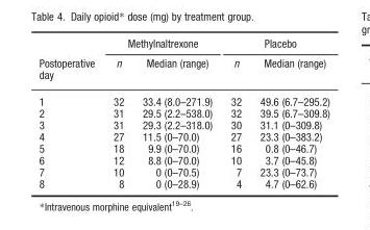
<table><thead><tr><td rowspan="2">Postoperative day</td><td colspan="2">Methylnaltrexone</td><td colspan="2">Placebo</td></tr><tr><td>n</td><td>Median (range)</td><td>n</td><td>Median (range)</td></tr></thead><tbody><tr><td>1</td><td>32</td><td>33.4 (8.0–271.9)</td><td>32</td><td>49.6 (6.7–295.2)</td></tr><tr><td>2</td><td>31</td><td>29.5 (2.2–538.0)</td><td>32</td><td>39.5 (6.7–309.8)</td></tr><tr><td>3</td><td>31</td><td>29.3 (2.2–318.0)</td><td>30</td><td>31.1 (0–309.8)</td></tr><tr><td>4</td><td>27</td><td>11.5 (0–70.0)</td><td>27</td><td>23.3 (0–383.2)</td></tr><tr><td>5</td><td>18</td><td>9.9 (0–70.0)</td><td>16</td><td>0.8 (0–46.7)</td></tr><tr><td>6</td><td>12</td><td>8.8 (0–70.0)</td><td>10</td><td>3.7 (0–45.8)</td></tr><tr><td>7</td><td>10</td><td>0 (0–70.5)</td><td>7</td><td>23.3 (0–73.7)</td></tr><tr><td>8</td><td>8</td><td>0 (0–28.9)</td><td>4</td><td>4.7 (0–62.6)</td></tr></tbody></table>